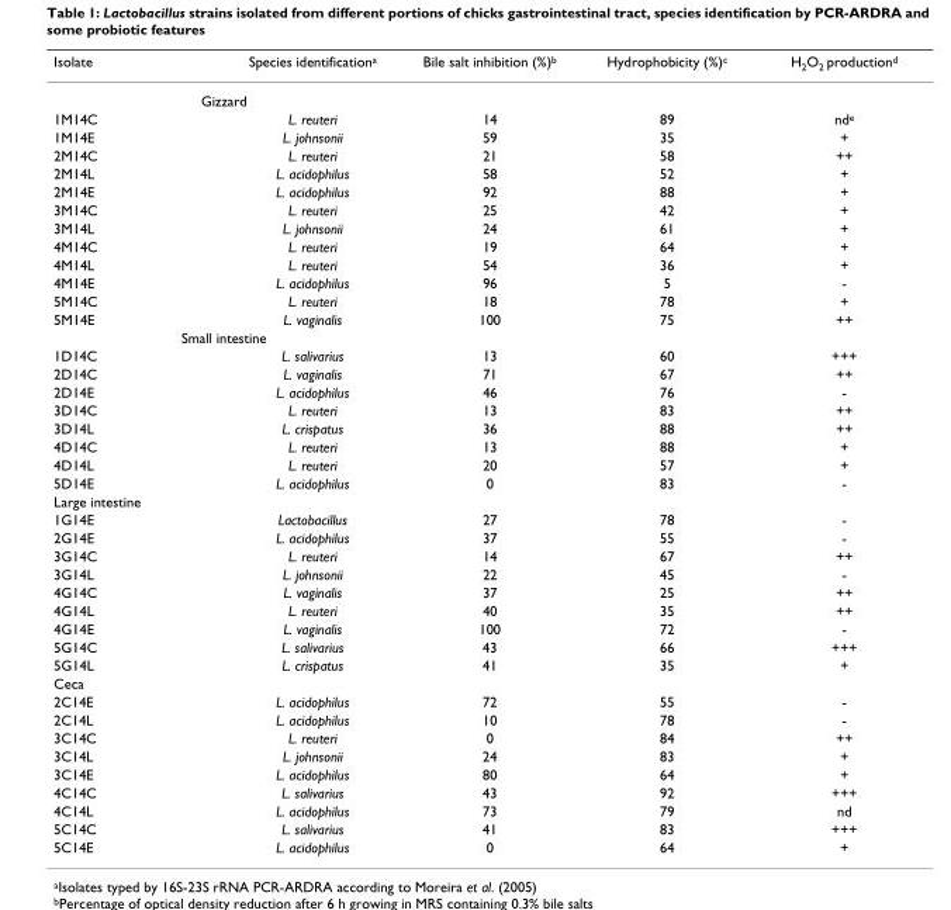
<table><thead><tr><td>Isolate</td><td>Species identificationa</td><td>Bile salt inhibition (%)b</td><td>Hydrophobicity (%)c</td><td>H2O2 productiond</td></tr></thead><tbody><tr><td colspan="5">Gizzard</td></tr><tr><td>1M14C</td><td>L. reuteri</td><td>14</td><td>89</td><td>nde</td></tr><tr><td>1M14E</td><td>L. johnsonii</td><td>59</td><td>35</td><td>+</td></tr><tr><td>2M14C</td><td>L. reuteri</td><td>21</td><td>58</td><td>++</td></tr><tr><td>2M14L</td><td>L. acidophilus</td><td>58</td><td>52</td><td>+</td></tr><tr><td>2M14E</td><td>L. acidophilus</td><td>92</td><td>88</td><td>+</td></tr><tr><td>3M14C</td><td>L. reuteri</td><td>25</td><td>42</td><td>+</td></tr><tr><td>3M14L</td><td>L. johnsonii</td><td>24</td><td>61</td><td>+</td></tr><tr><td>4M14C</td><td>L. reuteri</td><td>19</td><td>64</td><td>+</td></tr><tr><td>4M14L</td><td>L. reuteri</td><td>54</td><td>36</td><td>+</td></tr><tr><td>4M14E</td><td>L. acidophilus</td><td>96</td><td>5</td><td>-</td></tr><tr><td>5M14C</td><td>L. reuteri</td><td>18</td><td>78</td><td>+</td></tr><tr><td>5M14E</td><td>L. vaginalis</td><td>100</td><td>75</td><td>++</td></tr><tr><td colspan="5">Small intestine</td></tr><tr><td>1D14C</td><td>L. salivarius</td><td>13</td><td>60</td><td>+++</td></tr><tr><td>2D14C</td><td>L. vaginalis</td><td>71</td><td>67</td><td>++</td></tr><tr><td>2D14E</td><td>L. acidophilus</td><td>46</td><td>76</td><td>-</td></tr><tr><td>3D14C</td><td>L. reuteri</td><td>13</td><td>83</td><td>++</td></tr><tr><td>3D14L</td><td>L. crispatus</td><td>36</td><td>88</td><td>++</td></tr><tr><td>4D14C</td><td>L. reuteri</td><td>13</td><td>88</td><td>+</td></tr><tr><td>4D14L</td><td>L. reuteri</td><td>20</td><td>57</td><td>+</td></tr><tr><td>5D14E</td><td>L. acidophilus</td><td>0</td><td>83</td><td>-</td></tr><tr><td colspan="5">Large intestine</td></tr><tr><td>1G14E</td><td>Lactobacillus</td><td>27</td><td>78</td><td>-</td></tr><tr><td>2G14E</td><td>L. acidophilus</td><td>37</td><td>55</td><td>-</td></tr><tr><td>3G14C</td><td>L. reuteri</td><td>14</td><td>67</td><td>++</td></tr><tr><td>3G14L</td><td>L. johnsonii</td><td>22</td><td>45</td><td>-</td></tr><tr><td>4G14C</td><td>L. vaginalis</td><td>37</td><td>25</td><td>++</td></tr><tr><td>4G14L</td><td>L. reuteri</td><td>40</td><td>35</td><td>++</td></tr><tr><td>4G14E</td><td>L. vaginalis</td><td>100</td><td>72</td><td>-</td></tr><tr><td>5G14C</td><td>L. salivarius</td><td>43</td><td>66</td><td>+++</td></tr><tr><td>5G14L</td><td>L. crispatus</td><td>41</td><td>35</td><td>+</td></tr><tr><td colspan="5">Ceca</td></tr><tr><td>2C14E</td><td>L. acidophilus</td><td>72</td><td>55</td><td>-</td></tr><tr><td>2C14L</td><td>L. acidophilus</td><td>10</td><td>78</td><td>-</td></tr><tr><td>3C14C</td><td>L. reuteri</td><td>0</td><td>84</td><td>++</td></tr><tr><td>3C14L</td><td>L. johnsonii</td><td>24</td><td>83</td><td>+</td></tr><tr><td>3C14E</td><td>L. acidophilus</td><td>80</td><td>64</td><td>+</td></tr><tr><td>4C14C</td><td>L. salivarius</td><td>43</td><td>92</td><td>+++</td></tr><tr><td>4C14L</td><td>L. acidophilus</td><td>73</td><td>79</td><td>nd</td></tr><tr><td>5C14C</td><td>L. salivarius</td><td>41</td><td>83</td><td>+++</td></tr><tr><td>5C14E</td><td>L. acidophilus</td><td>0</td><td>64</td><td>+</td></tr></tbody></table>